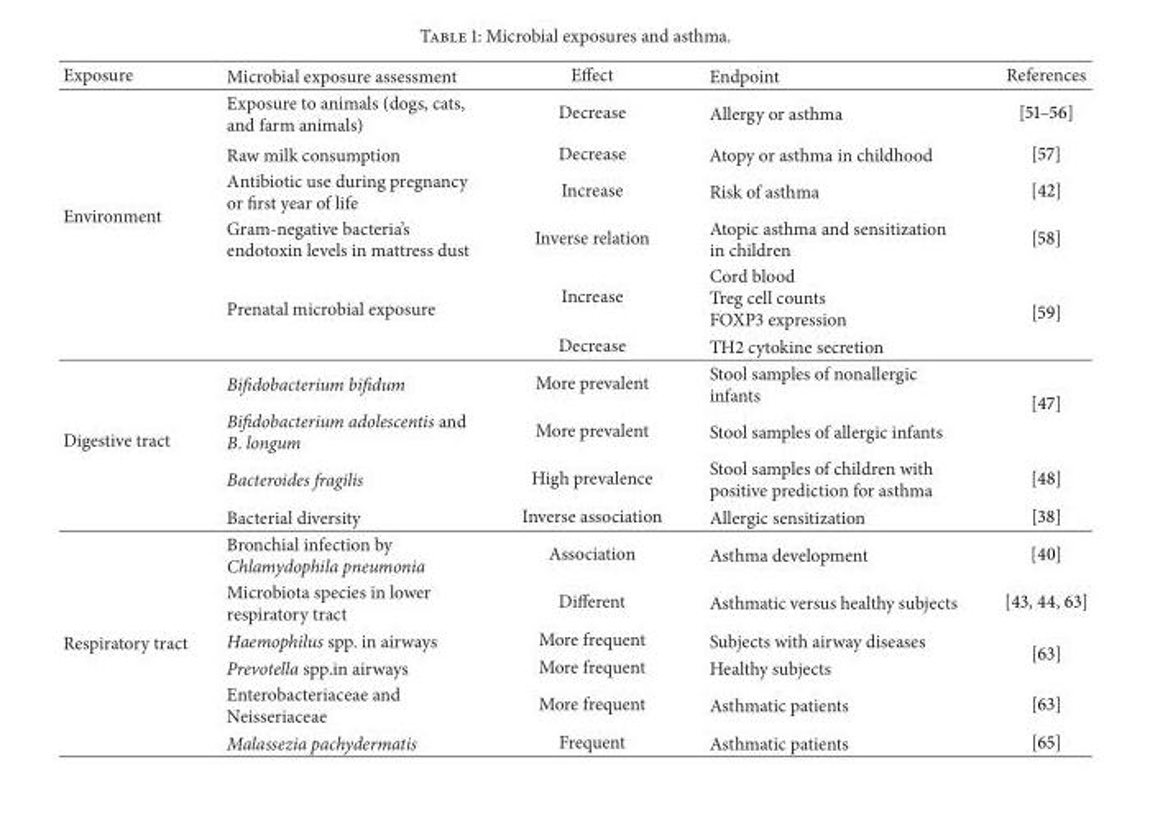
<table><thead><tr><td>Exposure</td><td>Microbial exposure assessment</td><td>Effect</td><td>Endpoint</td><td>References</td></tr></thead><tbody><tr><td rowspan="6">Environment</td><td>Exposure to animals (dogs, cats, and farm animals)</td><td>Decrease</td><td>Allergy or asthma</td><td>[51–56]</td></tr><tr><td>Raw milk consumption</td><td>Decrease</td><td>Atopy or asthma in childhood</td><td>[57]</td></tr><tr><td>Antibiotic use during pregnancy or first year of life</td><td>Increase</td><td>Risk of asthma</td><td>[42]</td></tr><tr><td>Gram-negative bacteria’s endotoxin levels in mattress dust</td><td>Inverse relation</td><td>Atopic asthma and sensitization in children</td><td>[58]</td></tr><tr><td rowspan="2">Prenatal microbial exposure</td><td>Increase</td><td>Cord blood Treg cell counts FOXP3 expression</td><td rowspan="2">[59]</td></tr><tr><td>Decrease</td><td>TH2 cytokine secretion</td></tr><tr><td rowspan="4">Digestive tract</td><td>Bifidobacterium bifidum</td><td>More prevalent</td><td>Stool samples of nonallergic infants</td><td rowspan="2">[47]</td></tr><tr><td>Bifidobacterium adolescentis and B. longum</td><td>More prevalent</td><td>Stool samples of allergic infants</td></tr><tr><td>Bacteroides fragilis</td><td>High prevalence</td><td>Stool samples of children with positive prediction for asthma</td><td>[48]</td></tr><tr><td>Bacterial diversity</td><td>Inverse association</td><td>Allergic sensitization</td><td>[38]</td></tr><tr><td rowspan="6">Respiratory tract</td><td>Bronchial infection by Chlamydophila pneumonia</td><td>Association</td><td>Asthma development</td><td>[40]</td></tr><tr><td>Microbiota species in lower respiratory tract</td><td>Different</td><td>Asthmatic versus healthy subjects</td><td>[43, 44, 63]</td></tr><tr><td>Haemophilus spp. in airways</td><td>More frequent</td><td>Subjects with airway diseases</td><td rowspan="2">[63]</td></tr><tr><td>Prevotella spp.in airways</td><td>More frequent</td><td>Healthy subjects</td></tr><tr><td>Enterobacteriaceae and Neisseriaceae</td><td>More frequent</td><td>Asthmatic patients</td><td>[63]</td></tr><tr><td>Malassezia pachydermatis</td><td>Frequent</td><td>Asthmatic patients</td><td>[65]</td></tr></tbody></table>